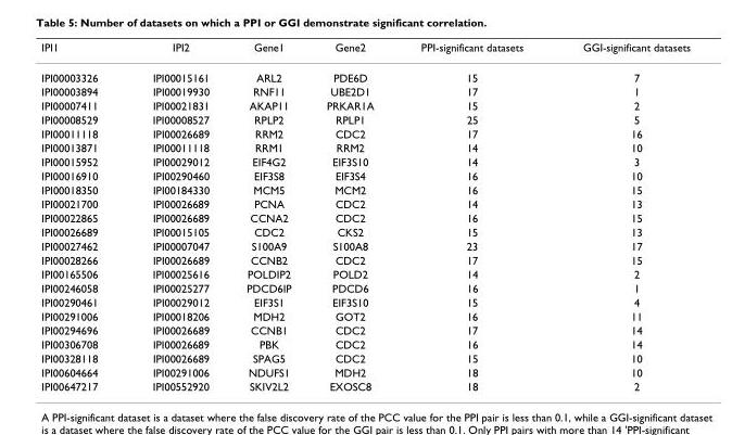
<table><thead><tr><td>IPI1</td><td>IPI2</td><td>Gene1</td><td>Gene2</td><td>PPI-significant datasets</td><td>GGI-significant datasets</td></tr></thead><tbody><tr><td>IPI00003326</td><td>IPI00015161</td><td>ARL2</td><td>PDE6D</td><td>15</td><td>7</td></tr><tr><td>IPI00003894</td><td>IPI00019930</td><td>RNF11</td><td>UBE2D1</td><td>17</td><td>1</td></tr><tr><td>IPI00007411</td><td>IPI00021831</td><td>AKAP11</td><td>PRKAR1A</td><td>15</td><td>2</td></tr><tr><td>IPI00008529</td><td>IPI00008527</td><td>RPLP2</td><td>RPLP1</td><td>25</td><td>5</td></tr><tr><td>IPI00011118</td><td>IPI00026689</td><td>RRM2</td><td>CDC2</td><td>17</td><td>16</td></tr><tr><td>IPI00013871</td><td>IPI00011118</td><td>RRM1</td><td>RRM2</td><td>14</td><td>10</td></tr><tr><td>IPI00015952</td><td>IPI00029012</td><td>EIF4G2</td><td>EIF3S10</td><td>14</td><td>3</td></tr><tr><td>IPI00016910</td><td>IPI00290460</td><td>EIF3S8</td><td>EIF3S4</td><td>16</td><td>10</td></tr><tr><td>IPI00018350</td><td>IPI00184330</td><td>MCM5</td><td>MCM2</td><td>16</td><td>15</td></tr><tr><td>IPI00021700</td><td>IPI00026689</td><td>PCNA</td><td>CDC2</td><td>14</td><td>13</td></tr><tr><td>IPI00022865</td><td>IPI00026689</td><td>CCNA2</td><td>CDC2</td><td>16</td><td>15</td></tr><tr><td>IPI00026689</td><td>IPI00015105</td><td>CDC2</td><td>CKS2</td><td>15</td><td>13</td></tr><tr><td>IPI00027462</td><td>IPI00007047</td><td>S100A9</td><td>S100A8</td><td>23</td><td>17</td></tr><tr><td>IPI00028266</td><td>IPI00026689</td><td>CCNB2</td><td>CDC2</td><td>17</td><td>15</td></tr><tr><td>IPI00165506</td><td>IPI00025616</td><td>POLDIP2</td><td>POLD2</td><td>14</td><td>2</td></tr><tr><td>IPI00246058</td><td>IPI00025277</td><td>PDCD6IP</td><td>PDCD6</td><td>16</td><td>1</td></tr><tr><td>IPI00290461</td><td>IPI00029012</td><td>EIF3S1</td><td>EIF3S10</td><td>15</td><td>4</td></tr><tr><td>IPI00291006</td><td>IPI00018206</td><td>MDH2</td><td>GOT2</td><td>16</td><td>11</td></tr><tr><td>IPI00294696</td><td>IPI00026689</td><td>CCNB1</td><td>CDC2</td><td>17</td><td>14</td></tr><tr><td>IPI00306708</td><td>IPI00026689</td><td>PBK</td><td>CDC2</td><td>16</td><td>14</td></tr><tr><td>IPI00328118</td><td>IPI00026689</td><td>SPAG5</td><td>CDC2</td><td>15</td><td>10</td></tr><tr><td>IPI00604664</td><td>IPI00291006</td><td>NDUFS1</td><td>MDH2</td><td>18</td><td>10</td></tr><tr><td>IPI00647217</td><td>IPI00552920</td><td>SKIV2L2</td><td>EXOSC8</td><td>18</td><td>2</td></tr></tbody></table>